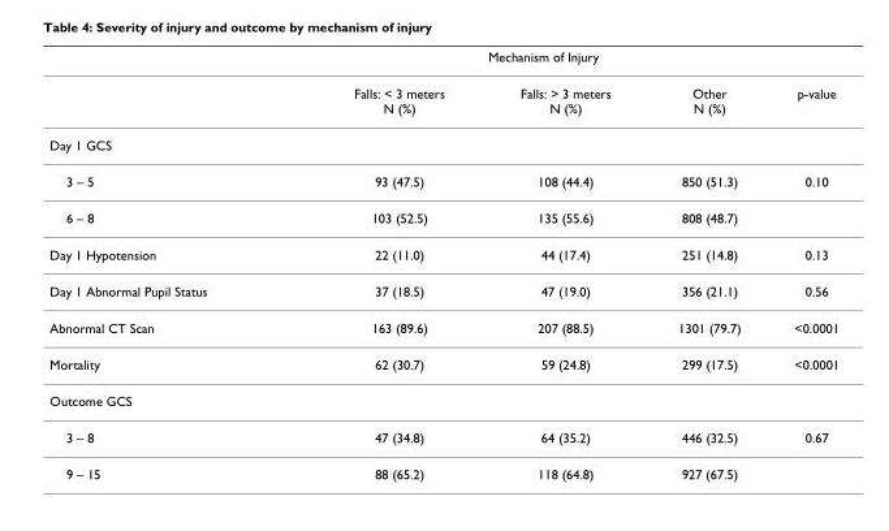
<table><thead><tr><td rowspan="2"></td><td colspan="3">Mechanism of Injury</td><td rowspan="2">p-value</td></tr><tr><td>Falls: &lt; 3 meters N (%)</td><td>Falls: &gt; 3 meters N (%)</td><td>Other N (%)</td></tr></thead><tbody><tr><td colspan="5">Day 1 GCS</td></tr><tr><td>3 – 5</td><td>93 (47.5)</td><td>108 (44.4)</td><td>850 (51.3)</td><td>0.10</td></tr><tr><td>6 – 8</td><td>103 (52.5)</td><td>135 (55.6)</td><td>808 (48.7)</td><td></td></tr><tr><td>Day 1 Hypotension</td><td>22 (11.0)</td><td>44 (17.4)</td><td>251 (14.8)</td><td>0.13</td></tr><tr><td>Day 1 Abnormal Pupil Status</td><td>37 (18.5)</td><td>47 (19.0)</td><td>356 (21.1)</td><td>0.56</td></tr><tr><td>Abnormal CT Scan</td><td>163 (89.6)</td><td>207 (88.5)</td><td>1301 (79.7)</td><td>&lt;0.0001</td></tr><tr><td>Mortality</td><td>62 (30.7)</td><td>59 (24.8)</td><td>299 (17.5)</td><td>&lt;0.0001</td></tr><tr><td colspan="5">Outcome GCS</td></tr><tr><td>3 – 8</td><td>47 (34.8)</td><td>64 (35.2)</td><td>446 (32.5)</td><td>0.67</td></tr><tr><td>9 – 15</td><td>88 (65.2)</td><td>118 (64.8)</td><td>927 (67.5)</td><td></td></tr></tbody></table>